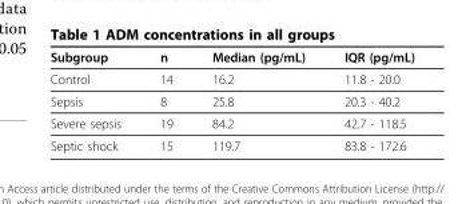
<table><thead><tr><td>Subgroup</td><td>n</td><td>Median (pg/mL)</td><td>IQR (pg/mL)</td></tr></thead><tbody><tr><td>Control</td><td>14</td><td>16.2</td><td>11.8 - 20.0</td></tr><tr><td>Sepsis</td><td>8</td><td>25.8</td><td>20.3 - 40.2</td></tr><tr><td>Severe sepsis</td><td>19</td><td>84.2</td><td>42.7 - 118.5</td></tr><tr><td>Septic shock</td><td>15</td><td>119.7</td><td>83.8 - 172.6</td></tr></tbody></table>